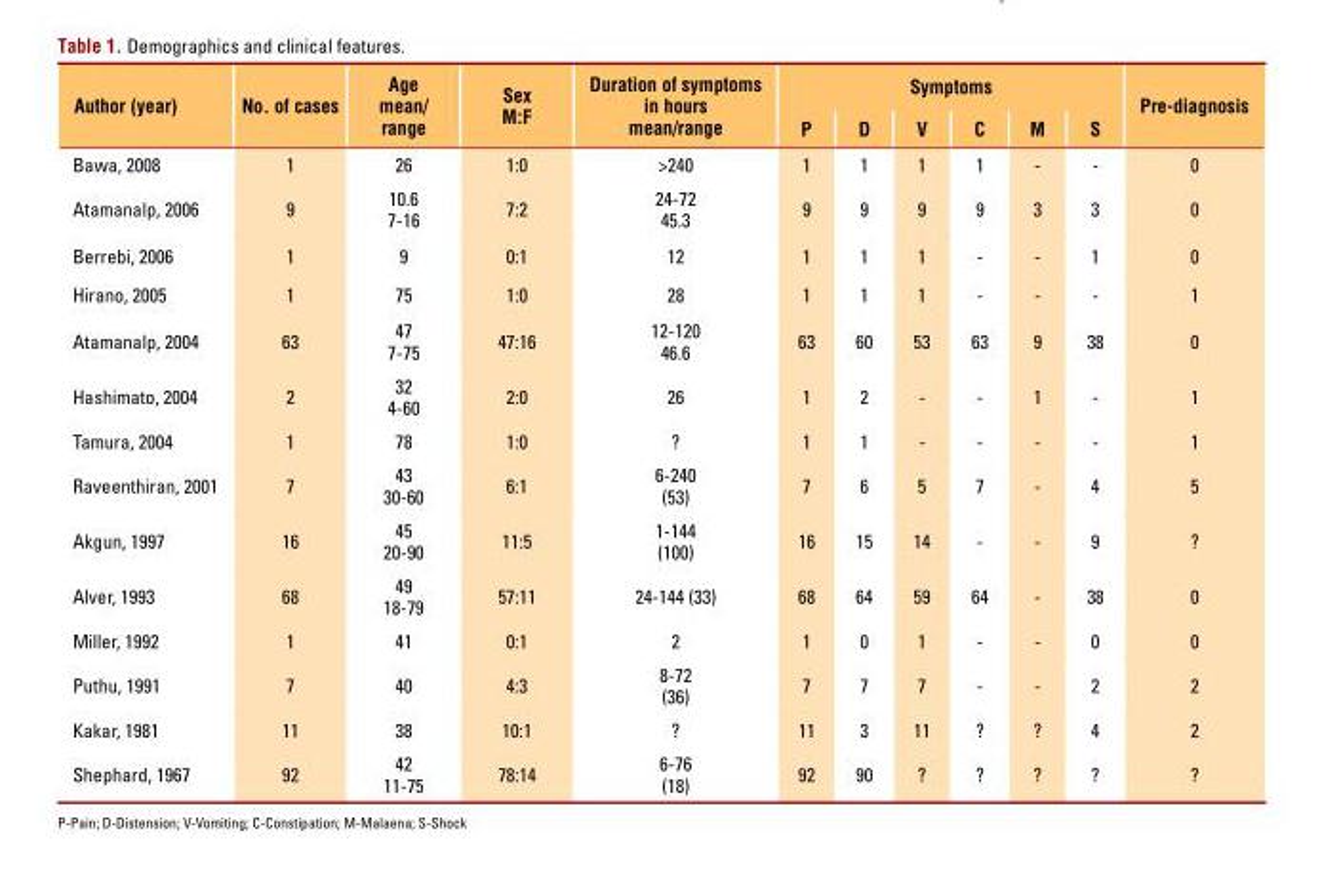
<table><thead><tr><td rowspan="2">Author (year)</td><td rowspan="2">No. of cases</td><td rowspan="2">Age mean/ range</td><td rowspan="2">Sex M:F</td><td rowspan="2">Duration of symptoms in hours mean/range</td><td colspan="6">Symptoms</td><td rowspan="2">Pre-diagnosis</td></tr><tr><td>P</td><td>D</td><td>V</td><td>C</td><td>M</td><td>S</td></tr></thead><tbody><tr><td>Bawa, 2008</td><td>1</td><td>26</td><td>1:0</td><td>&gt;240</td><td>1</td><td>1</td><td>1</td><td>1</td><td>-</td><td>-</td><td>0</td></tr><tr><td>Atamanalp, 2006</td><td>9</td><td>10.6 7-16</td><td>7:2</td><td>24-72 45.3</td><td>9</td><td>9</td><td>9</td><td>9</td><td>3</td><td>3</td><td>0</td></tr><tr><td>Berrebi, 2006</td><td>1</td><td>9</td><td>0:1</td><td>12</td><td>1</td><td>1</td><td>1</td><td>-</td><td>-</td><td>1</td><td>0</td></tr><tr><td>Hirano, 2005</td><td>1</td><td>75</td><td>1:0</td><td>28</td><td>1</td><td>1</td><td>1</td><td>-</td><td>-</td><td>-</td><td>1</td></tr><tr><td>Atamanalp, 2004</td><td>63</td><td>47 7-75</td><td>47:16</td><td>12-120 46.6</td><td>63</td><td>60</td><td>53</td><td>63</td><td>9</td><td>38</td><td>0</td></tr><tr><td>Hashimato, 2004</td><td>2</td><td>32 4-60</td><td>2:0</td><td>26</td><td>1</td><td>2</td><td>-</td><td>-</td><td>1</td><td>-</td><td>1</td></tr><tr><td>Tamura, 2004</td><td>1</td><td>78</td><td>1:0</td><td>?</td><td>1</td><td>1</td><td>-</td><td>-</td><td>-</td><td>-</td><td>1</td></tr><tr><td>Raveenthiran, 2001</td><td>7</td><td>43 30-60</td><td>6:1</td><td>6-240 (53)</td><td>7</td><td>6</td><td>5</td><td>7</td><td>-</td><td>4</td><td>5</td></tr><tr><td>Akgun, 1997</td><td>16</td><td>45 20-90</td><td>11:5</td><td>1-144 (100)</td><td>16</td><td>15</td><td>14</td><td>-</td><td>-</td><td>9</td><td>?</td></tr><tr><td>Alver, 1993</td><td>68</td><td>49 18-79</td><td>57:11</td><td>24-144 (33)</td><td>68</td><td>64</td><td>59</td><td>64</td><td>-</td><td>38</td><td>0</td></tr><tr><td>Miller, 1992</td><td>1</td><td>41</td><td>0:1</td><td>2</td><td>1</td><td>0</td><td>1</td><td>-</td><td>-</td><td>0</td><td>0</td></tr><tr><td>Puthu, 1991</td><td>7</td><td>40</td><td>4:3</td><td>8-72 (36)</td><td>7</td><td>7</td><td>7</td><td>-</td><td>-</td><td>2</td><td>2</td></tr><tr><td>Kakar, 1981</td><td>11</td><td>38</td><td>10:1</td><td>?</td><td>11</td><td>3</td><td>11</td><td>?</td><td>?</td><td>4</td><td>2</td></tr><tr><td>Shephard, 1967</td><td>92</td><td>42 11-75</td><td>78:14</td><td>6-76 (18)</td><td>92</td><td>90</td><td>?</td><td>?</td><td>?</td><td>?</td><td>?</td></tr></tbody></table>